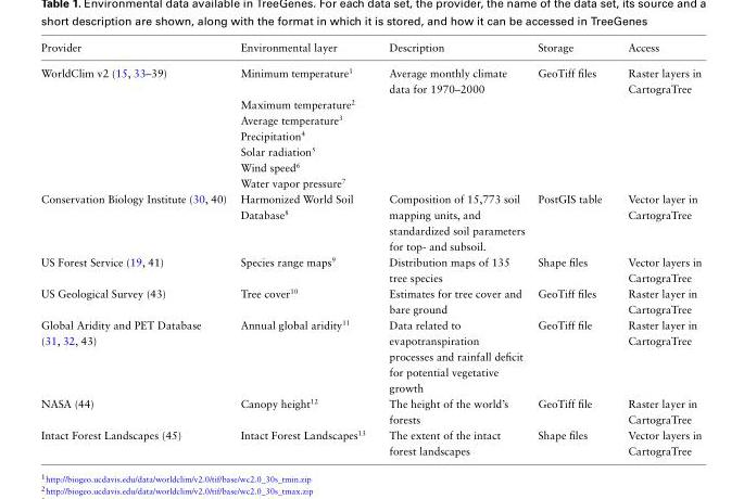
<table><thead><tr><td>Provider</td><td>Environmental layer</td><td>Description</td><td>Storage</td><td>Access</td></tr></thead><tbody><tr><td rowspan="7">WorldClim v2 (15, 33–39)</td><td>Minimum temperature<sup>1</sup></td><td rowspan="7">Average monthly climate data for 1970–2000</td><td rowspan="7">GeoTiff files</td><td rowspan="7">Raster layers in CartograTree</td></tr><tr><td>Maximum temperature<sup>2</sup></td></tr><tr><td>Average temperature<sup>3</sup></td></tr><tr><td>Precipitation<sup>4</sup></td></tr><tr><td>Solar radiation<sup>5</sup></td></tr><tr><td>Wind speed<sup>6</sup></td></tr><tr><td>Water vapor pressure<sup>7</sup></td></tr><tr><td>Conservation Biology Institute (30, 40)</td><td>Harmonized World Soil Database<sup>8</sup></td><td>Composition of 15,773 soil mapping units, and standardized soil parameters for top- and subsoil.</td><td>PostGIS table</td><td>Vector layer in CartograTree</td></tr><tr><td>US Forest Service (19, 41)</td><td>Species range maps<sup>9</sup></td><td>Distribution maps of 135 tree species</td><td>Shape files</td><td>Vector layers in CartograTree</td></tr><tr><td>US Geological Survey (43)</td><td>Tree cover<sup>10</sup></td><td>Estimates for tree cover and bare ground</td><td>GeoTiff files</td><td>Raster layer in CartograTree</td></tr><tr><td>Global Aridity and PET Database (31, 32, 43)</td><td>Annual global aridity<sup>11</sup></td><td>Data related to evapotranspiration processes and rainfall deficit for potential vegetative growth</td><td>GeoTiff file</td><td>Raster layer in CartograTree</td></tr><tr><td>NASA (44)</td><td>Canopy height<sup>12</sup></td><td>The height of the world’s forests</td><td>GeoTiff file</td><td>Raster layer in CartograTree</td></tr><tr><td>Intact Forest Landscapes (45)</td><td>Intact Forest Landscapes<sup>13</sup></td><td>The extent of the intact forest landscapes</td><td>Shape files</td><td>Vector layers in CartograTree</td></tr></tbody></table>